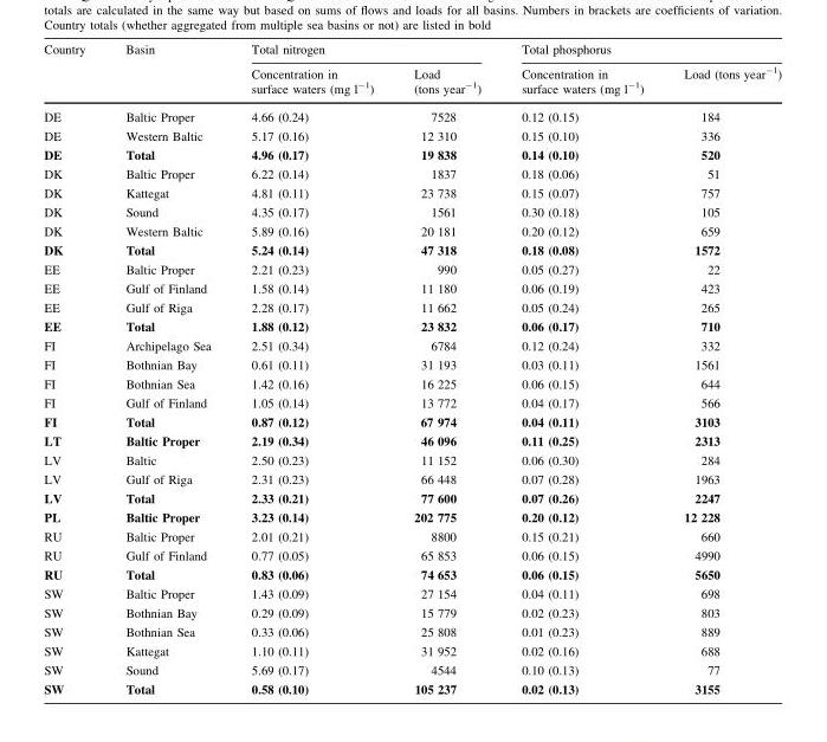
<table><thead><tr><td rowspan="2">Country</td><td rowspan="2">Basin</td><td colspan="2">Total nitrogen</td><td colspan="2">Total phosphorus</td></tr><tr><td>Concentration in surface waters (mg l<sup>-1</sup>)</td><td>Load (tons year<sup>-1</sup>)</td><td>Concentration in surface waters (mg l<sup>-1</sup>)</td><td>Load (tons year<sup>-1</sup>)</td></tr></thead><tbody><tr><td>DE</td><td>Baltic Proper</td><td>4.66 (0.24)</td><td>7528</td><td>0.12 (0.15)</td><td>184</td></tr><tr><td>DE</td><td>Western Baltic</td><td>5.17 (0.16)</td><td>12 310</td><td>0.15 (0.10)</td><td>336</td></tr><tr><td>DE</td><td>Total</td><td>4.96 (0.17)</td><td>19 838</td><td>0.14 (0.10)</td><td>520</td></tr><tr><td>DK</td><td>Baltic Proper</td><td>6.22 (0.14)</td><td>1837</td><td>0.18 (0.06)</td><td>51</td></tr><tr><td>DK</td><td>Kattegat</td><td>4.81 (0.11)</td><td>23 738</td><td>0.15 (0.07)</td><td>757</td></tr><tr><td>DK</td><td>Sound</td><td>4.35 (0.17)</td><td>1561</td><td>0.30 (0.18)</td><td>105</td></tr><tr><td>DK</td><td>Western Baltic</td><td>5.89 (0.16)</td><td>20 181</td><td>0.20 (0.12)</td><td>659</td></tr><tr><td>DK</td><td>Total</td><td>5.24 (0.14)</td><td>47 318</td><td>0.18 (0.08)</td><td>1572</td></tr><tr><td>EE</td><td>Baltic Proper</td><td>2.21 (0.23)</td><td>990</td><td>0.05 (0.27)</td><td>22</td></tr><tr><td>EE</td><td>Gulf of Finland</td><td>1.58 (0.14)</td><td>11 180</td><td>0.06 (0.19)</td><td>423</td></tr><tr><td>EE</td><td>Gulf of Riga</td><td>2.28 (0.17)</td><td>11 662</td><td>0.05 (0.24)</td><td>265</td></tr><tr><td>EE</td><td>Total</td><td>1.88 (0.12)</td><td>23 832</td><td>0.06 (0.17)</td><td>710</td></tr><tr><td>FI</td><td>Archipelago Sea</td><td>2.51 (0.34)</td><td>6784</td><td>0.12 (0.24)</td><td>332</td></tr><tr><td>FI</td><td>Bothnian Bay</td><td>0.61 (0.11)</td><td>31 193</td><td>0.03 (0.11)</td><td>1561</td></tr><tr><td>FI</td><td>Bothnian Sea</td><td>1.42 (0.16)</td><td>16 225</td><td>0.06 (0.15)</td><td>644</td></tr><tr><td>FI</td><td>Gulf of Finland</td><td>1.05 (0.14)</td><td>13 772</td><td>0.04 (0.17)</td><td>566</td></tr><tr><td>FI</td><td>Total</td><td>0.87 (0.12)</td><td>67 974</td><td>0.04 (0.11)</td><td>3103</td></tr><tr><td>LT</td><td>Baltic Proper</td><td>2.19 (0.34)</td><td>46 096</td><td>0.11 (0.25)</td><td>2313</td></tr><tr><td>LV</td><td>Baltic</td><td>2.50 (0.23)</td><td>11 152</td><td>0.06 (0.30)</td><td>284</td></tr><tr><td>LV</td><td>Gulf of Riga</td><td>2.31 (0.23)</td><td>66 448</td><td>0.07 (0.28)</td><td>1963</td></tr><tr><td>LV</td><td>Total</td><td>2.33 (0.21)</td><td>77 600</td><td>0.07 (0.26)</td><td>2247</td></tr><tr><td>PL</td><td>Baltic Proper</td><td>3.23 (0.14)</td><td>202 775</td><td>0.20 (0.12)</td><td>12 228</td></tr><tr><td>RU</td><td>Baltic Proper</td><td>2.01 (0.21)</td><td>8800</td><td>0.15 (0.21)</td><td>660</td></tr><tr><td>RU</td><td>Gulf of Finland</td><td>0.77 (0.05)</td><td>65 853</td><td>0.06 (0.15)</td><td>4990</td></tr><tr><td>RU</td><td>Total</td><td>0.83 (0.06)</td><td>74 653</td><td>0.06 (0.15)</td><td>5650</td></tr><tr><td>SW</td><td>Baltic Proper</td><td>1.43 (0.09)</td><td>27 154</td><td>0.04 (0.11)</td><td>698</td></tr><tr><td>SW</td><td>Bothnian Bay</td><td>0.29 (0.09)</td><td>15 779</td><td>0.02 (0.23)</td><td>803</td></tr><tr><td>SW</td><td>Bothnian Sea</td><td>0.33 (0.06)</td><td>25 808</td><td>0.01 (0.23)</td><td>889</td></tr><tr><td>SW</td><td>Kattegat</td><td>1.10 (0.11)</td><td>31 952</td><td>0.02 (0.16)</td><td>688</td></tr><tr><td>SW</td><td>Sound</td><td>5.69 (0.17)</td><td>4544</td><td>0.10 (0.13)</td><td>77</td></tr><tr><td>SW</td><td>Total</td><td>0.58 (0.10)</td><td>105 237</td><td>0.02 (0.13)</td><td>3155</td></tr></tbody></table>